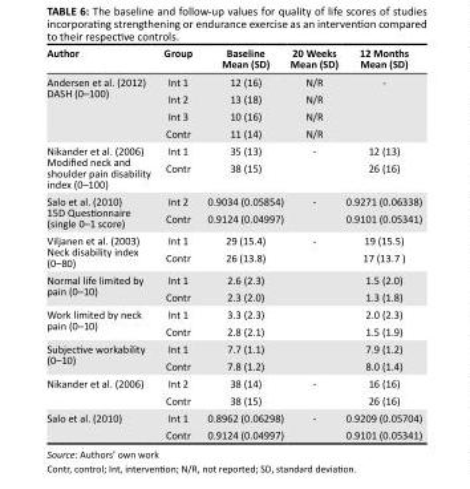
<table><thead><tr><td>Author</td><td>Group</td><td>Baseline Mean (SD)</td><td>20 Weeks Mean (SD)</td><td>12 Months Mean (SD)</td></tr></thead><tbody><tr><td rowspan="4">Andersen et al. (2012) DASH (0–100)</td><td>Int 1</td><td>12 (16)</td><td>N/R</td><td>-</td></tr><tr><td>Int 2</td><td>13 (18)</td><td>N/R</td><td></td></tr><tr><td>Int 3</td><td>10 (16)</td><td>N/R</td><td></td></tr><tr><td>Contr</td><td>11 (14)</td><td>N/R</td><td></td></tr><tr><td rowspan="2">Nikander et al. (2006) Modified neck and shoulder pain disability index (0–100)</td><td>Int 1</td><td>35 (13)</td><td>-</td><td>12 (13)</td></tr><tr><td>Contr</td><td>38 (15)</td><td></td><td>26 (16)</td></tr><tr><td rowspan="2">Salo et al. (2010) 15D Questionnaire (single 0–1 score)</td><td>Int 2</td><td>0.9034 (0.05854)</td><td>-</td><td>0.9271 (0.06338)</td></tr><tr><td>Contr</td><td>0.9124 (0.04997)</td><td></td><td>0.9101 (0.05341)</td></tr><tr><td rowspan="2">Viljanen et al. (2003) Neck disability index (0–80)</td><td>Int 1</td><td>29 (15.4)</td><td>-</td><td>19 (15.5)</td></tr><tr><td>Contr</td><td>26 (13.8)</td><td></td><td>17 (13.7 )</td></tr><tr><td rowspan="2">Normal life limited by pain (0–10)</td><td>Int 1</td><td>2.6 (2.3)</td><td></td><td>1.5 (2.0)</td></tr><tr><td>Contr</td><td>2.3 (2.0)</td><td></td><td>1.3 (1.8)</td></tr><tr><td rowspan="2">Work limited by neck pain (0–10)</td><td>Int 1</td><td>3.3 (2.3)</td><td></td><td>2.0 (2.3)</td></tr><tr><td>Contr</td><td>2.8 (2.1)</td><td></td><td>1.5 (1.9)</td></tr><tr><td rowspan="2">Subjective workability (0–10)</td><td>Int 1</td><td>7.7 (1.1)</td><td></td><td>7.9 (1.2)</td></tr><tr><td>Contr</td><td>7.8 (1.2)</td><td></td><td>8.0 (1.4)</td></tr><tr><td rowspan="2">Nikander et al. (2006)</td><td>Int 2</td><td>38 (14)</td><td>-</td><td>16 (16)</td></tr><tr><td>Contr</td><td>38 (15)</td><td></td><td>26 (16)</td></tr><tr><td rowspan="2">Salo et al. (2010)</td><td>Int 1</td><td>0.8962 (0.06298)</td><td>-</td><td>0.9209 (0.05704)</td></tr><tr><td>Contr</td><td>0.9124 (0.04997)</td><td></td><td>0.9101 (0.05341)</td></tr></tbody></table>